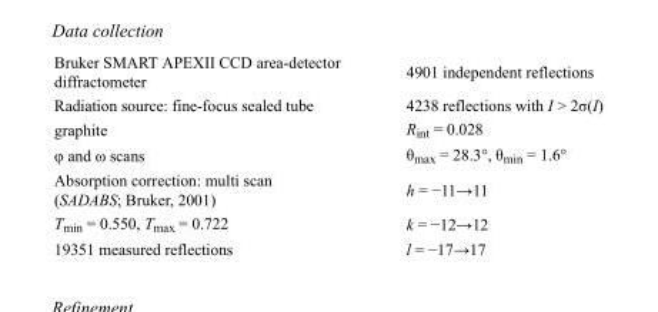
<table><tbody><tr><td>Bruker SMART APEXII CCD area-detector diffractometer</td><td>4901 independent reflections</td></tr><tr><td>Radiation source: fine-focus sealed tube</td><td>4238 reflections with I &gt; 2σ(I)</td></tr><tr><td>graphite</td><td>R<sub>int</sub> = 0.028</td></tr><tr><td>φ and ω scans</td><td>θ<sub>max</sub> = 28.3°, θ<sub>min</sub> = 1.6°</td></tr><tr><td>Absorption correction: multi scan (SADABS; Bruker, 2001)</td><td>h = −11→11</td></tr><tr><td>T<sub>min</sub> = 0.550, T<sub>max</sub> = 0.722</td><td>k = −12→12</td></tr><tr><td>19351 measured reflections</td><td>l = −17→17</td></tr></tbody></table>